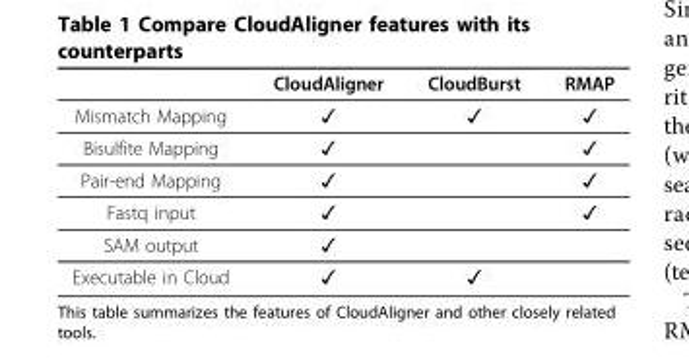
<table><thead><tr><td></td><td>CloudAligner</td><td>CloudBurst</td><td>RMAP</td></tr></thead><tbody><tr><td>Mismatch Mapping</td><td>✓</td><td>✓</td><td>✓</td></tr><tr><td>Bisulfite Mapping</td><td>✓</td><td></td><td>✓</td></tr><tr><td>Pair-end Mapping</td><td>✓</td><td></td><td>✓</td></tr><tr><td>Fastq input</td><td>✓</td><td></td><td>✓</td></tr><tr><td>SAM output</td><td>✓</td><td></td><td></td></tr><tr><td>Executable in Cloud</td><td>✓</td><td>✓</td><td></td></tr></tbody></table>